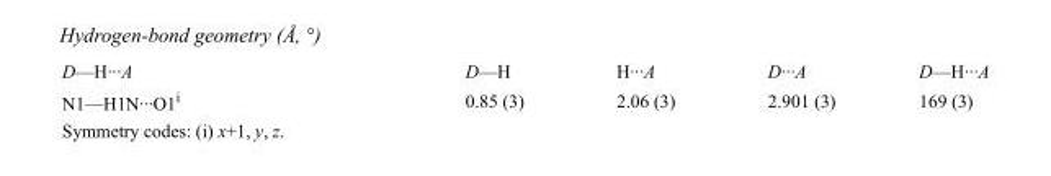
<table><tbody><tr><td>D—H···A</td><td>D—H</td><td>H···A</td><td>D···A</td><td>D—H···A</td></tr><tr><td>N1—H1N···O1<sup>i</sup></td><td>0.85 (3)</td><td>2.06 (3)</td><td>2.901 (3)</td><td>169 (3)</td></tr></tbody></table>